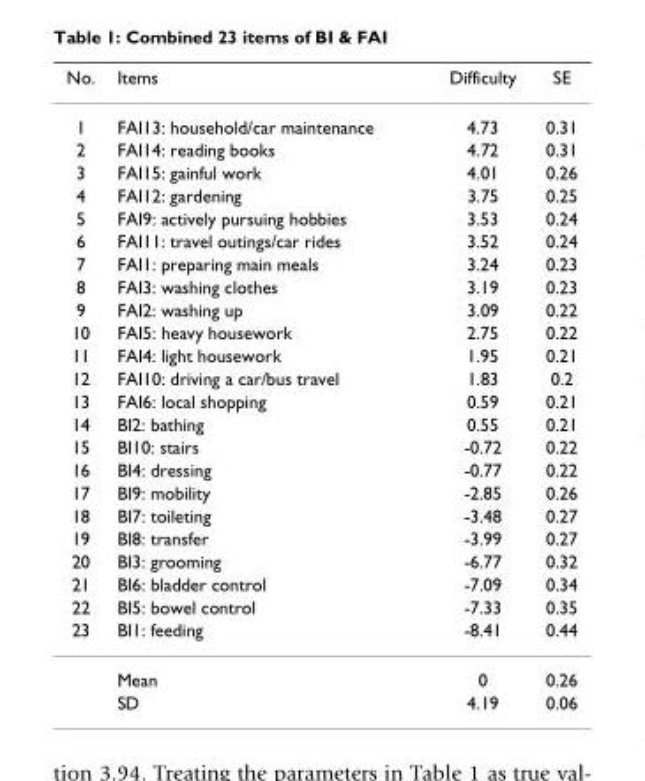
<table><thead><tr><td>No.</td><td>Items</td><td>Difficulty</td><td>SE</td></tr></thead><tbody><tr><td>1</td><td>FAI13: household/car maintenance</td><td>4.73</td><td>0.31</td></tr><tr><td>2</td><td>FAI14: reading books</td><td>4.72</td><td>0.31</td></tr><tr><td>3</td><td>FAI15: gainful work</td><td>4.01</td><td>0.26</td></tr><tr><td>4</td><td>FAI12: gardening</td><td>3.75</td><td>0.25</td></tr><tr><td>5</td><td>FAI9: actively pursuing hobbies</td><td>3.53</td><td>0.24</td></tr><tr><td>6</td><td>FAI11: travel outings/car rides</td><td>3.52</td><td>0.24</td></tr><tr><td>7</td><td>FAI1: preparing main meals</td><td>3.24</td><td>0.23</td></tr><tr><td>8</td><td>FAI3: washing clothes</td><td>3.19</td><td>0.23</td></tr><tr><td>9</td><td>FAI2: washing up</td><td>3.09</td><td>0.22</td></tr><tr><td>10</td><td>FAI5: heavy housework</td><td>2.75</td><td>0.22</td></tr><tr><td>11</td><td>FAI4: light housework</td><td>1.95</td><td>0.21</td></tr><tr><td>12</td><td>FAI10: driving a car/bus travel</td><td>1.83</td><td>0.2</td></tr><tr><td>13</td><td>FAI6: local shopping</td><td>0.59</td><td>0.21</td></tr><tr><td>14</td><td>BI2: bathing</td><td>0.55</td><td>0.21</td></tr><tr><td>15</td><td>BI10: stairs</td><td>-0.72</td><td>0.22</td></tr><tr><td>16</td><td>BI4: dressing</td><td>-0.77</td><td>0.22</td></tr><tr><td>17</td><td>BI9: mobility</td><td>-2.85</td><td>0.26</td></tr><tr><td>18</td><td>BI7: toileting</td><td>-3.48</td><td>0.27</td></tr><tr><td>19</td><td>BI8: transfer</td><td>-3.99</td><td>0.27</td></tr><tr><td>20</td><td>BI3: grooming</td><td>-6.77</td><td>0.32</td></tr><tr><td>21</td><td>BI6: bladder control</td><td>-7.09</td><td>0.34</td></tr><tr><td>22</td><td>BI5: bowel control</td><td>-7.33</td><td>0.35</td></tr><tr><td rowspan="3">23</td><td>BI1: feeding</td><td>-8.41</td><td>0.44</td></tr><tr><td>Mean</td><td>0</td><td>0.26</td></tr><tr><td>SD</td><td>4.19</td><td>0.06</td></tr></tbody></table>